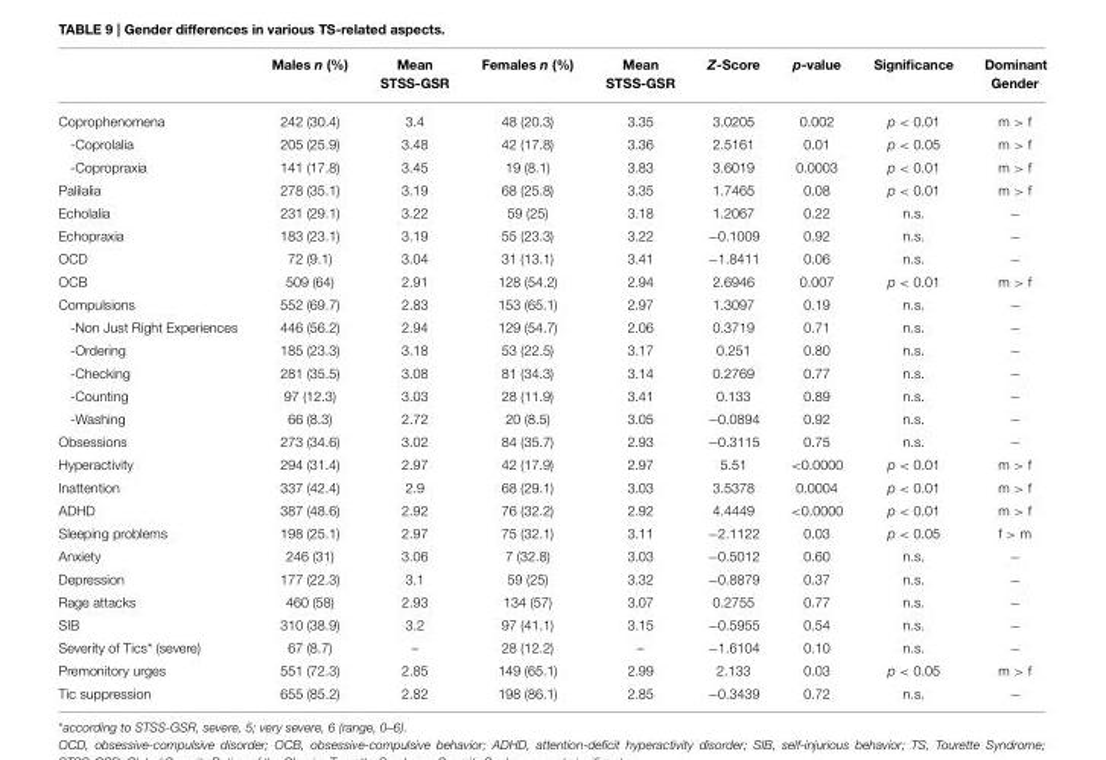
<table><thead><tr><td></td><td>Males n (%)</td><td>Mean STSS-GSR</td><td>Females n (%)</td><td>Mean STSS-GSR</td><td>Z-Score</td><td>p-value</td><td>Significance</td><td>Dominant Gender</td></tr></thead><tbody><tr><td>Coprophenomena</td><td>242 (30.4)</td><td>3.4</td><td>48 (20.3)</td><td>3.35</td><td>3.0205</td><td>0.002</td><td>p &lt; 0.01</td><td>m &gt; f</td></tr><tr><td>-Coprolalia</td><td>205 (25.9)</td><td>3.48</td><td>42 (17.8)</td><td>3.36</td><td>2.5161</td><td>0.01</td><td>p &lt; 0.05</td><td>m &gt; f</td></tr><tr><td>-Copropraxia</td><td>141 (17.8)</td><td>3.45</td><td>19 (8.1)</td><td>3.83</td><td>3.6019</td><td>0.0003</td><td>p &lt; 0.01</td><td>m &gt; f</td></tr><tr><td>Palilalia</td><td>278 (35.1)</td><td>3.19</td><td>68 (25.8)</td><td>3.35</td><td>1.7465</td><td>0.08</td><td>p &lt; 0.01</td><td>m &gt; f</td></tr><tr><td>Echolalia</td><td>231 (29.1)</td><td>3.22</td><td>59 (25)</td><td>3.18</td><td>1.2067</td><td>0.22</td><td>n.s.</td><td>−</td></tr><tr><td>Echopraxia</td><td>183 (23.1)</td><td>3.19</td><td>55 (23.3)</td><td>3.22</td><td>−0.1009</td><td>0.92</td><td>n.s.</td><td>−</td></tr><tr><td>OCD</td><td>72 (9.1)</td><td>3.04</td><td>31 (13.1)</td><td>3.41</td><td>−1.8411</td><td>0.06</td><td>n.s.</td><td>−</td></tr><tr><td>OCB</td><td>509 (64)</td><td>2.91</td><td>128 (54.2)</td><td>2.94</td><td>2.6946</td><td>0.007</td><td>p &lt; 0.01</td><td>m &gt; f</td></tr><tr><td>Compulsions</td><td>552 (69.7)</td><td>2.83</td><td>153 (65.1)</td><td>2.97</td><td>1.3097</td><td>0.19</td><td>n.s.</td><td>−</td></tr><tr><td>-Non Just Right Experiences</td><td>446 (56.2)</td><td>2.94</td><td>129 (54.7)</td><td>2.06</td><td>0.3719</td><td>0.71</td><td>n.s.</td><td>−</td></tr><tr><td>-Ordering</td><td>185 (23.3)</td><td>3.18</td><td>53 (22.5)</td><td>3.17</td><td>0.251</td><td>0.80</td><td>n.s.</td><td>−</td></tr><tr><td>-Checking</td><td>281 (35.5)</td><td>3.08</td><td>81 (34.3)</td><td>3.14</td><td>0.2769</td><td>0.77</td><td>n.s.</td><td>−</td></tr><tr><td>-Counting</td><td>97 (12.3)</td><td>3.03</td><td>28 (11.9)</td><td>3.41</td><td>0.133</td><td>0.89</td><td>n.s.</td><td>−</td></tr><tr><td>-Washing</td><td>66 (8.3)</td><td>2.72</td><td>20 (8.5)</td><td>3.05</td><td>−0.0894</td><td>0.92</td><td>n.s.</td><td>−</td></tr><tr><td>Obsessions</td><td>273 (34.6)</td><td>3.02</td><td>84 (35.7)</td><td>2.93</td><td>−0.3115</td><td>0.75</td><td>n.s.</td><td>−</td></tr><tr><td>Hyperactivity</td><td>294 (31.4)</td><td>2.97</td><td>42 (17.9)</td><td>2.97</td><td>5.51</td><td>&lt;0.0000</td><td>p &lt; 0.01</td><td>m &gt; f</td></tr><tr><td>Inattention</td><td>337 (42.4)</td><td>2.9</td><td>68 (29.1)</td><td>3.03</td><td>3.5378</td><td>0.0004</td><td>p &lt; 0.01</td><td>m &gt; f</td></tr><tr><td>ADHD</td><td>387 (48.6)</td><td>2.92</td><td>76 (32.2)</td><td>2.92</td><td>4.4449</td><td>&lt;0.0000</td><td>p &lt; 0.01</td><td>m &gt; f</td></tr><tr><td>Sleeping problems</td><td>198 (25.1)</td><td>2.97</td><td>75 (32.1)</td><td>3.11</td><td>−2.1122</td><td>0.03</td><td>p &lt; 0.05</td><td>f &gt; m</td></tr><tr><td>Anxiety</td><td>246 (31)</td><td>3.06</td><td>7 (32.8)</td><td>3.03</td><td>−0.5012</td><td>0.60</td><td>n.s.</td><td>−</td></tr><tr><td>Depression</td><td>177 (22.3)</td><td>3.1</td><td>59 (25)</td><td>3.32</td><td>−0.8879</td><td>0.37</td><td>n.s.</td><td>−</td></tr><tr><td>Rage attacks</td><td>460 (58)</td><td>2.93</td><td>134 (57)</td><td>3.07</td><td>0.2755</td><td>0.77</td><td>n.s.</td><td>−</td></tr><tr><td>SIB</td><td>310 (38.9)</td><td>3.2</td><td>97 (41.1)</td><td>3.15</td><td>−0.5955</td><td>0.54</td><td>n.s.</td><td>−</td></tr><tr><td>Severity of Tics* (severe)</td><td>67 (8.7)</td><td>–</td><td>28 (12.2)</td><td>–</td><td>−1.6104</td><td>0.10</td><td>n.s.</td><td>−</td></tr><tr><td>Premonitory urges</td><td>551 (72.3)</td><td>2.85</td><td>149 (65.1)</td><td>2.99</td><td>2.133</td><td>0.03</td><td>p &lt; 0.05</td><td>m &gt; f</td></tr><tr><td>Tic suppression</td><td>655 (85.2)</td><td>2.82</td><td>198 (86.1)</td><td>2.85</td><td>−0.3439</td><td>0.72</td><td>n.s.</td><td>−</td></tr></tbody></table>